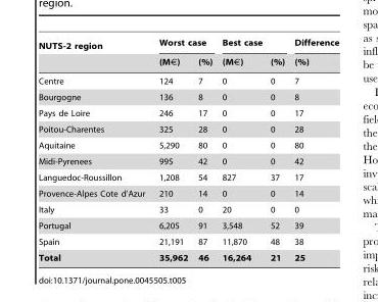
<table><thead><tr><td rowspan="2">NUTS-2 region</td><td colspan="2">Worst case</td><td colspan="2">Best case</td><td rowspan="2">Difference (%)</td></tr><tr><td>(M€)</td><td>(%)</td><td>(M€)</td><td>(%)</td></tr></thead><tbody><tr><td>Centre</td><td>124</td><td>7</td><td>0</td><td>0</td><td>7</td></tr><tr><td>Bourgogne</td><td>136</td><td>8</td><td>0</td><td>0</td><td>8</td></tr><tr><td>Pays de Loire</td><td>246</td><td>17</td><td>0</td><td>0</td><td>17</td></tr><tr><td>Poitou-Charentes</td><td>325</td><td>28</td><td>0</td><td>0</td><td>28</td></tr><tr><td>Aquitaine</td><td>5,290</td><td>80</td><td>0</td><td>0</td><td>80</td></tr><tr><td>Midi-Pyrenees</td><td>995</td><td>42</td><td>0</td><td>0</td><td>42</td></tr><tr><td>Languedoc-Roussillon</td><td>1,208</td><td>54</td><td>827</td><td>37</td><td>17</td></tr><tr><td>Provence-Alpes Cote d’Azur</td><td>210</td><td>14</td><td>0</td><td>0</td><td>14</td></tr><tr><td>Italy</td><td>33</td><td>0</td><td>20</td><td>0</td><td>0</td></tr><tr><td>Portugal</td><td>6,205</td><td>91</td><td>3,548</td><td>52</td><td>39</td></tr><tr><td>Spain</td><td>21,191</td><td>87</td><td>11,870</td><td>48</td><td>38</td></tr><tr><td>Total</td><td>35,962</td><td>46</td><td>16,264</td><td>21</td><td>25</td></tr></tbody></table>